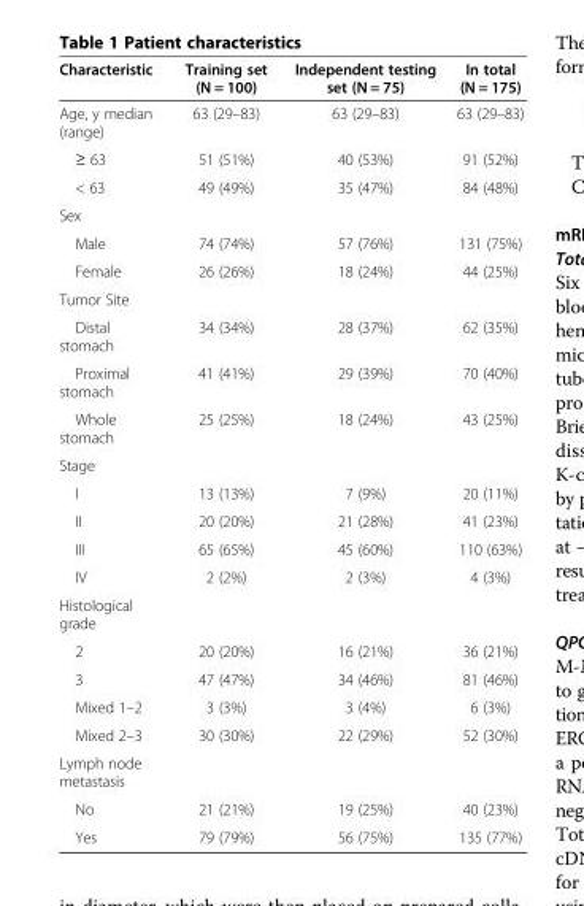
<table><thead><tr><td>Characteristic</td><td>Training set (N = 100)</td><td>Independent testing set (N = 75)</td><td>In total (N = 175)</td></tr></thead><tbody><tr><td>Age, y median (range)</td><td>63 (29–83)</td><td>63 (29–83)</td><td>63 (29–83)</td></tr><tr><td>≥ 63</td><td>51 (51%)</td><td>40 (53%)</td><td>91 (52%)</td></tr><tr><td>&lt; 63</td><td>49 (49%)</td><td>35 (47%)</td><td>84 (48%)</td></tr><tr><td colspan="4">Sex</td></tr><tr><td>Male</td><td>74 (74%)</td><td>57 (76%)</td><td>131 (75%)</td></tr><tr><td>Female</td><td>26 (26%)</td><td>18 (24%)</td><td>44 (25%)</td></tr><tr><td colspan="4">Tumor Site</td></tr><tr><td>Distal stomach</td><td>34 (34%)</td><td>28 (37%)</td><td>62 (35%)</td></tr><tr><td>Proximal stomach</td><td>41 (41%)</td><td>29 (39%)</td><td>70 (40%)</td></tr><tr><td>Whole stomach</td><td>25 (25%)</td><td>18 (24%)</td><td>43 (25%)</td></tr><tr><td colspan="4">Stage</td></tr><tr><td>I</td><td>13 (13%)</td><td>7 (9%)</td><td>20 (11%)</td></tr><tr><td>II</td><td>20 (20%)</td><td>21 (28%)</td><td>41 (23%)</td></tr><tr><td>III</td><td>65 (65%)</td><td>45 (60%)</td><td>110 (63%)</td></tr><tr><td>IV</td><td>2 (2%)</td><td>2 (3%)</td><td>4 (3%)</td></tr><tr><td colspan="4">Histological grade</td></tr><tr><td>2</td><td>20 (20%)</td><td>16 (21%)</td><td>36 (21%)</td></tr><tr><td>3</td><td>47 (47%)</td><td>34 (46%)</td><td>81 (46%)</td></tr><tr><td>Mixed 1–2</td><td>3 (3%)</td><td>3 (4%)</td><td>6 (3%)</td></tr><tr><td>Mixed 2–3</td><td>30 (30%)</td><td>22 (29%)</td><td>52 (30%)</td></tr><tr><td colspan="4">Lymph node metastasis</td></tr><tr><td>No</td><td>21 (21%)</td><td>19 (25%)</td><td>40 (23%)</td></tr><tr><td>Yes</td><td>79 (79%)</td><td>56 (75%)</td><td>135 (77%)</td></tr></tbody></table>